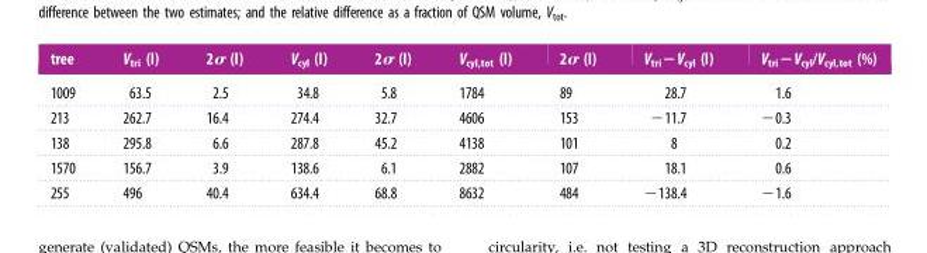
<table><thead><tr><td>tree</td><td>V<sub>tri</sub> (l)</td><td>2σ (l)</td><td>V<sub>cyl</sub> (l)</td><td>2σ (l)</td><td>V<sub>cyl,tot</sub> (l)</td><td>2σ (l)</td><td>V<sub>tri</sub>−V<sub>cyl</sub> (l)</td><td>V<sub>tri</sub>−V<sub>cyl</sub>/V<sub>cyl,tot</sub> (%)</td></tr></thead><tbody><tr><td>1009</td><td>63.5</td><td>2.5</td><td>34.8</td><td>5.8</td><td>1784</td><td>89</td><td>28.7</td><td>1.6</td></tr><tr><td>213</td><td>262.7</td><td>16.4</td><td>274.4</td><td>32.7</td><td>4606</td><td>153</td><td>−11.7</td><td>−0.3</td></tr><tr><td>138</td><td>295.8</td><td>6.6</td><td>287.8</td><td>45.2</td><td>4138</td><td>101</td><td>8</td><td>0.2</td></tr><tr><td>1570</td><td>156.7</td><td>3.9</td><td>138.6</td><td>6.1</td><td>2882</td><td>107</td><td>18.1</td><td>0.6</td></tr><tr><td>255</td><td>496</td><td>40.4</td><td>634.4</td><td>68.8</td><td>8632</td><td>484</td><td>−138.4</td><td>−1.6</td></tr></tbody></table>